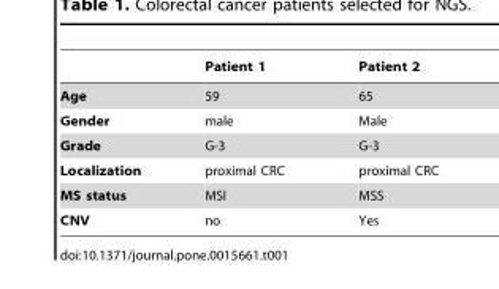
<table><thead><tr><td></td><td>Patient 1</td><td>Patient 2</td></tr></thead><tbody><tr><td>Age</td><td>59</td><td>65</td></tr><tr><td>Gender</td><td>male</td><td>Male</td></tr><tr><td>Grade</td><td>G-3</td><td>G-3</td></tr><tr><td>Localization</td><td>proximal CRC</td><td>proximal CRC</td></tr><tr><td>MS status</td><td>MSI</td><td>MSS</td></tr><tr><td>CNV</td><td>no</td><td>Yes</td></tr></tbody></table>